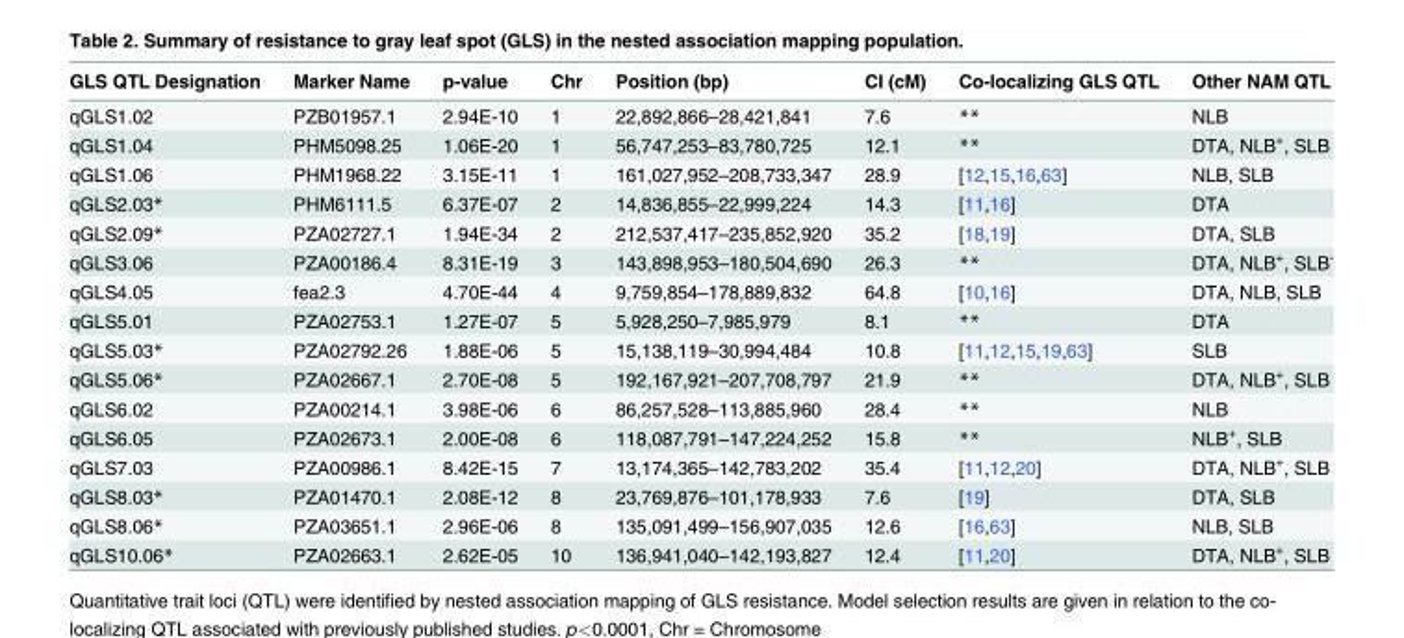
<table><thead><tr><td>GLS QTL Designation</td><td>Marker Name</td><td>p-value</td><td>Chr</td><td>Position (bp)</td><td>CI (cM)</td><td>Co-localizing GLS QTL</td><td>Other NAM QTL</td></tr></thead><tbody><tr><td>qGLS1.02</td><td>PZB01957.1</td><td>2.94E-10</td><td>1</td><td>22,892,866–28,421,841</td><td>7.6</td><td>**</td><td>NLB</td></tr><tr><td>qGLS1.04</td><td>PHM5098.25</td><td>1.06E-20</td><td>1</td><td>56,747,253–83,780,725</td><td>12.1</td><td>**</td><td>DTA, NLB<sup>+</sup>, SLB</td></tr><tr><td>qGLS1.06</td><td>PHM1968.22</td><td>3.15E-11</td><td>1</td><td>161,027,952–208,733,347</td><td>28.9</td><td>[12,15,16,63]</td><td>NLB, SLB</td></tr><tr><td>qGLS2.03*</td><td>PHM6111.5</td><td>6.37E-07</td><td>2</td><td>14,836,855–22,999,224</td><td>14.3</td><td>[11,16]</td><td>DTA</td></tr><tr><td>qGLS2.09*</td><td>PZA02727.1</td><td>1.94E-34</td><td>2</td><td>212,537,417–235,852,920</td><td>35.2</td><td>[18,19]</td><td>DTA, SLB</td></tr><tr><td>qGLS3.06</td><td>PZA00186.4</td><td>8.31E-19</td><td>3</td><td>143,898,953–180,504,690</td><td>26.3</td><td>**</td><td>DTA, NLB<sup>+</sup>, SLB<sup>-</sup></td></tr><tr><td>qGLS4.05</td><td>fea2.3</td><td>4.70E-44</td><td>4</td><td>9,759,854–178,889,832</td><td>64.8</td><td>[10,16]</td><td>DTA, NLB, SLB</td></tr><tr><td>qGLS5.01</td><td>PZA02753.1</td><td>1.27E-07</td><td>5</td><td>5,928,250–7,985,979</td><td>8.1</td><td>**</td><td>DTA</td></tr><tr><td>qGLS5.03*</td><td>PZA02792.26</td><td>1.88E-06</td><td>5</td><td>15,138,119–30,994,484</td><td>10.8</td><td>[11,12,15,19,63]</td><td>SLB</td></tr><tr><td>qGLS5.06*</td><td>PZA02667.1</td><td>2.70E-08</td><td>5</td><td>192,167,921–207,708,797</td><td>21.9</td><td>**</td><td>DTA, NLB<sup>+</sup>, SLB</td></tr><tr><td>qGLS6.02</td><td>PZA00214.1</td><td>3.98E-06</td><td>6</td><td>86,257,528–113,885,960</td><td>28.4</td><td>**</td><td>NLB</td></tr><tr><td>qGLS6.05</td><td>PZA02673.1</td><td>2.00E-08</td><td>6</td><td>118,087,791–147,224,252</td><td>15.8</td><td>**</td><td>NLB<sup>+</sup>, SLB</td></tr><tr><td>qGLS7.03</td><td>PZA00986.1</td><td>8.42E-15</td><td>7</td><td>13,174,365–142,783,202</td><td>35.4</td><td>[11,12,20]</td><td>DTA, NLB<sup>+</sup>, SLB</td></tr><tr><td>qGLS8.03*</td><td>PZA01470.1</td><td>2.08E-12</td><td>8</td><td>23,769,876–101,178,933</td><td>7.6</td><td>[19]</td><td>DTA, SLB</td></tr><tr><td>qGLS8.06*</td><td>PZA03651.1</td><td>2.96E-06</td><td>8</td><td>135,091,499–156,907,035</td><td>12.6</td><td>[16,63]</td><td>NLB, SLB</td></tr><tr><td>qGLS10.06*</td><td>PZA02663.1</td><td>2.62E-05</td><td>10</td><td>136,941,040–142,193,827</td><td>12.4</td><td>[11,20]</td><td>DTA, NLB<sup>+</sup>, SLB</td></tr></tbody></table>